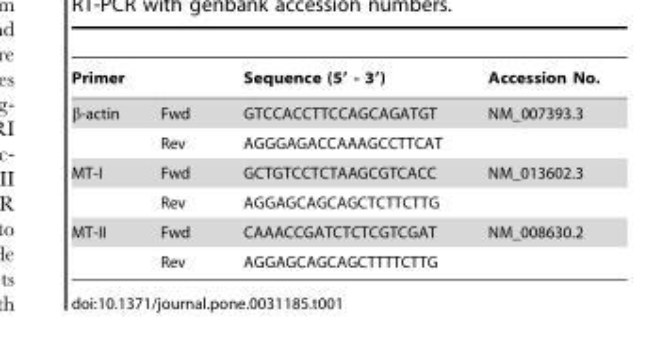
<table><thead><tr><td>Primer</td><td></td><td>Sequence (5′ - 3′)</td><td>Accession No.</td></tr></thead><tbody><tr><td rowspan="2">β-actin</td><td>Fwd</td><td>GTCCACCTTCCAGCAGATGT</td><td>NM_007393.3</td></tr><tr><td>Rev</td><td>AGGGAGACCAAAGCCTTCAT</td><td></td></tr><tr><td rowspan="2">MT-I</td><td>Fwd</td><td>GCTGTCCTCTAAGCGTCACC</td><td>NM_013602.3</td></tr><tr><td>Rev</td><td>AGGAGCAGCAGCTCTTCTTG</td><td></td></tr><tr><td rowspan="2">MT-II</td><td>Fwd</td><td>CAAACCGATCTCTCGTCGAT</td><td>NM_008630.2</td></tr><tr><td>Rev</td><td>AGGAGCAGCAGCTTTTCTTG</td><td></td></tr></tbody></table>